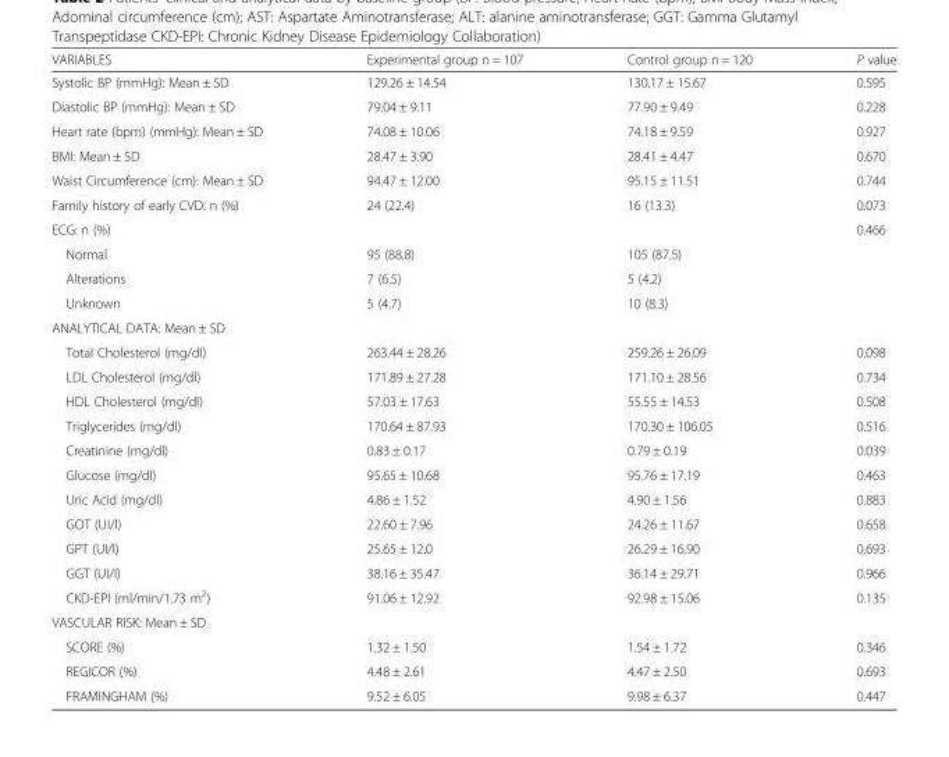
<table><thead><tr><td>VARIABLES</td><td>Experimental group n = 107</td><td>Control group n = 120</td><td>P value</td></tr></thead><tbody><tr><td>Systolic BP (mmHg): Mean ± SD</td><td>129.26 ± 14.54</td><td>130.17 ± 15.67</td><td>0.595</td></tr><tr><td>Diastolic BP (mmHg): Mean ± SD</td><td>79.04 ± 9.11</td><td>77.90 ± 9.49</td><td>0.228</td></tr><tr><td>Heart rate (bpm) (mmHg): Mean ± SD</td><td>74.08 ± 10.06</td><td>74.18 ± 9.59</td><td>0.927</td></tr><tr><td>BMI: Mean ± SD</td><td>28.47 ± 3.90</td><td>28.41 ± 4.47</td><td>0.670</td></tr><tr><td>Waist Circumference (cm): Mean ± SD</td><td>94.47 ± 12.00</td><td>95.15 ± 11.51</td><td>0.744</td></tr><tr><td>Family history of early CVD: n (%)</td><td>24 (22.4)</td><td>16 (13.3)</td><td>0.073</td></tr><tr><td colspan="3">ECG: n (%)</td><td rowspan="4">0.466</td></tr><tr><td>Normal</td><td>95 (88.8)</td><td>105 (87.5)</td></tr><tr><td>Alterations</td><td>7 (6.5)</td><td>5 (4.2)</td></tr><tr><td>Unknown</td><td>5 (4.7)</td><td>10 (8.3)</td></tr><tr><td colspan="4">ANALYTICAL DATA: Mean ± SD</td></tr><tr><td>Total Cholesterol (mg/dl)</td><td>263.44 ± 28.26</td><td>259.26 ± 26.09</td><td>0.098</td></tr><tr><td>LDL Cholesterol (mg/dl)</td><td>171.89 ± 27.28</td><td>171.10 ± 28.56</td><td>0.734</td></tr><tr><td>HDL Cholesterol (mg/dl)</td><td>57.03 ± 17.63</td><td>55.55 ± 14.53</td><td>0.508</td></tr><tr><td>Triglycerides (mg/dl)</td><td>170.64 ± 87.93</td><td>170.30 ± 106.05</td><td>0.516</td></tr><tr><td>Creatinine (mg/dl)</td><td>0.83 ± 0.17</td><td>0.79 ± 0.19</td><td>0.039</td></tr><tr><td>Glucose (mg/dl)</td><td>95.65 ± 10.68</td><td>95.76 ± 17.19</td><td>0.463</td></tr><tr><td>Uric Acid (mg/dl)</td><td>4.86 ± 1.52</td><td>4.90 ± 1.56</td><td>0.883</td></tr><tr><td>GOT (UI/l)</td><td>22.60 ± 7.96</td><td>24.26 ± 11.67</td><td>0.658</td></tr><tr><td>GPT (UI/l)</td><td>25.65 ± 12.0</td><td>26.29 ± 16.90</td><td>0.693</td></tr><tr><td>GGT (UI/l)</td><td>38.16 ± 35.47</td><td>36.14 ± 29.71</td><td>0.966</td></tr><tr><td>CKD-EPI (ml/min/1.73 m<sup>2</sup>)</td><td>91.06 ± 12.92</td><td>92.98 ± 15.06</td><td>0.135</td></tr><tr><td colspan="4">VASCULAR RISK: Mean ± SD</td></tr><tr><td>SCORE (%)</td><td>1.32 ± 1.50</td><td>1.54 ± 1.72</td><td>0.346</td></tr><tr><td>REGICOR (%)</td><td>4.48 ± 2.61</td><td>4.47 ± 2.50</td><td>0.693</td></tr><tr><td>FRAMINGHAM (%)</td><td>9.52 ± 6.05</td><td>9.98 ± 6.37</td><td>0.447</td></tr></tbody></table>